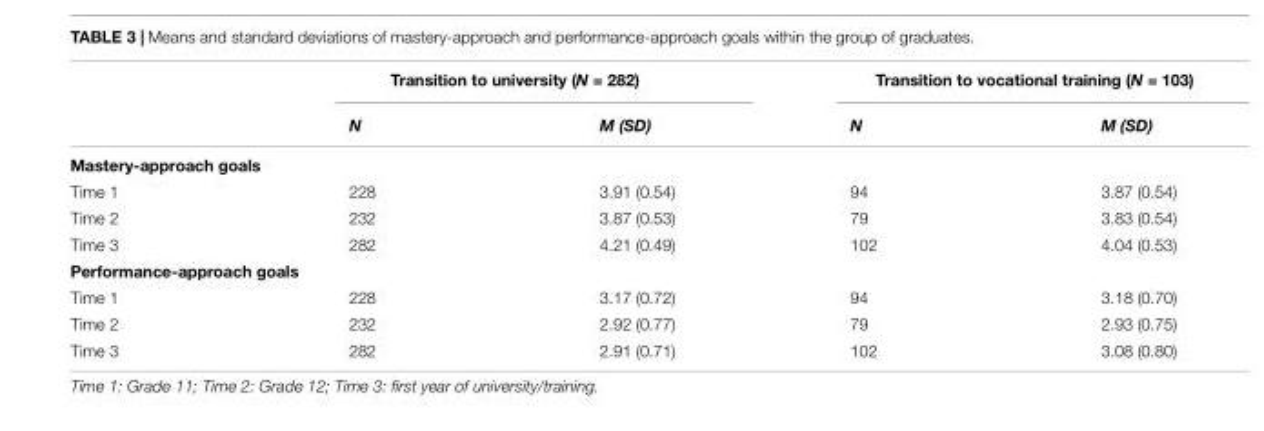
<table><thead><tr><td rowspan="2"></td><td colspan="2">Transition to university (N = 282)</td><td colspan="2">Transition to vocational training (N = 103)</td></tr><tr><td>N</td><td>M (SD)</td><td>N</td><td>M (SD)</td></tr></thead><tbody><tr><td colspan="5">Mastery-approach goals</td></tr><tr><td>Time 1</td><td>228</td><td>3.91 (0.54)</td><td>94</td><td>3.87 (0.54)</td></tr><tr><td>Time 2</td><td>232</td><td>3.87 (0.53)</td><td>79</td><td>3.83 (0.54)</td></tr><tr><td>Time 3</td><td>282</td><td>4.21 (0.49)</td><td>102</td><td>4.04 (0.53)</td></tr><tr><td colspan="5">Performance-approach goals</td></tr><tr><td>Time 1</td><td>228</td><td>3.17 (0.72)</td><td>94</td><td>3.18 (0.70)</td></tr><tr><td>Time 2</td><td>232</td><td>2.92 (0.77)</td><td>79</td><td>2.93 (0.75)</td></tr><tr><td>Time 3</td><td>282</td><td>2.91 (0.71)</td><td>102</td><td>3.08 (0.80)</td></tr></tbody></table>